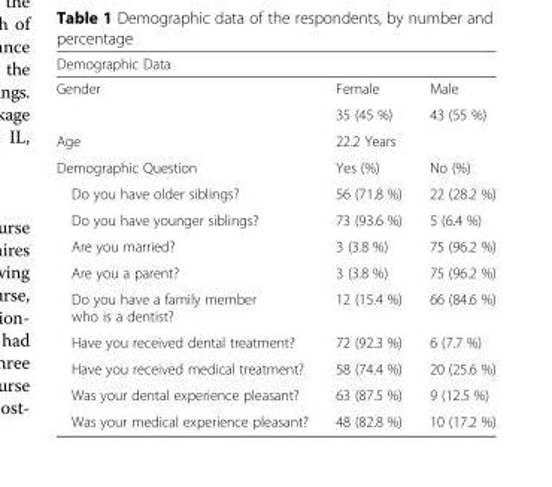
<table><thead><tr><td>Demographic Data</td><td></td><td></td></tr></thead><tbody><tr><td rowspan="2">Gender</td><td>Female</td><td>Male</td></tr><tr><td>35 (45 %)</td><td>43 (55 %)</td></tr><tr><td>Age</td><td colspan="2">22.2 Years</td></tr><tr><td>Demographic Question</td><td>Yes (%)</td><td>No (%)</td></tr><tr><td>Do you have older siblings?</td><td>56 (71.8 %)</td><td>22 (28.2 %)</td></tr><tr><td>Do you have younger siblings?</td><td>73 (93.6 %)</td><td>5 (6.4 %)</td></tr><tr><td>Are you married?</td><td>3 (3.8 %)</td><td>75 (96.2 %)</td></tr><tr><td>Are you a parent?</td><td>3 (3.8 %)</td><td>75 (96.2 %)</td></tr><tr><td>Do you have a family member who is a dentist?</td><td>12 (15.4 %)</td><td>66 (84.6 %)</td></tr><tr><td>Have you received dental treatment?</td><td>72 (92.3 %)</td><td>6 (7.7 %)</td></tr><tr><td>Have you received medical treatment?</td><td>58 (74.4 %)</td><td>20 (25.6 %)</td></tr><tr><td>Was your dental experience pleasant?</td><td>63 (87.5 %)</td><td>9 (12.5 %)</td></tr><tr><td>Was your medical experience pleasant?</td><td>48 (82.8 %)</td><td>10 (17.2 %)</td></tr></tbody></table>